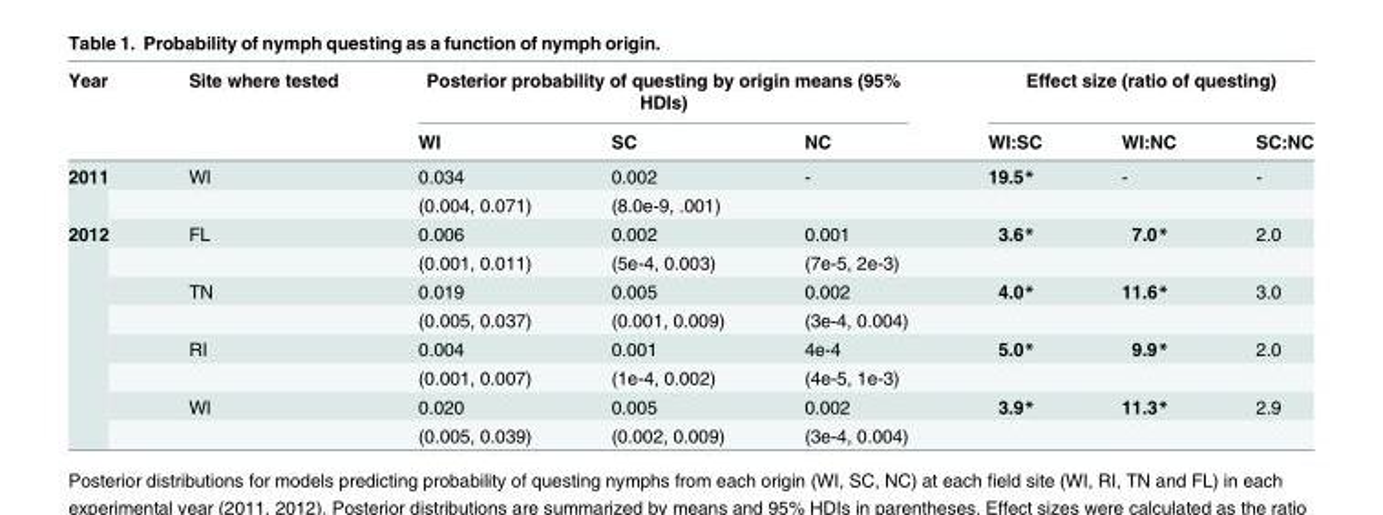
<table><thead><tr><td rowspan="2">Year</td><td rowspan="2">Site where tested</td><td colspan="3">Posterior probability of questing by origin means (95% HDIs)</td><td colspan="3">Effect size (ratio of questing)</td></tr><tr><td>WI</td><td>SC</td><td>NC</td><td>WI:SC</td><td>WI:NC</td><td>SC:NC</td></tr></thead><tbody><tr><td rowspan="2">2011</td><td>WI</td><td>0.034</td><td>0.002</td><td>-</td><td>19.5*</td><td>-</td><td>-</td></tr><tr><td></td><td>(0.004, 0.071)</td><td>(8.0e-9, .001)</td><td></td><td></td><td></td><td></td></tr><tr><td rowspan="8">2012</td><td>FL</td><td>0.006</td><td>0.002</td><td>0.001</td><td>3.6*</td><td>7.0*</td><td>2.0</td></tr><tr><td></td><td>(0.001, 0.011)</td><td>(5e-4, 0.003)</td><td>(7e-5, 2e-3)</td><td></td><td></td><td></td></tr><tr><td>TN</td><td>0.019</td><td>0.005</td><td>0.002</td><td>4.0*</td><td>11.6*</td><td>3.0</td></tr><tr><td></td><td>(0.005, 0.037)</td><td>(0.001, 0.009)</td><td>(3e-4, 0.004)</td><td></td><td></td><td></td></tr><tr><td>RI</td><td>0.004</td><td>0.001</td><td>4e-4</td><td>5.0*</td><td>9.9*</td><td>2.0</td></tr><tr><td></td><td>(0.001, 0.007)</td><td>(1e-4, 0.002)</td><td>(4e-5, 1e-3)</td><td></td><td></td><td></td></tr><tr><td>WI</td><td>0.020</td><td>0.005</td><td>0.002</td><td>3.9*</td><td>11.3*</td><td>2.9</td></tr><tr><td></td><td>(0.005, 0.039)</td><td>(0.002, 0.009)</td><td>(3e-4, 0.004)</td><td></td><td></td><td></td></tr></tbody></table>